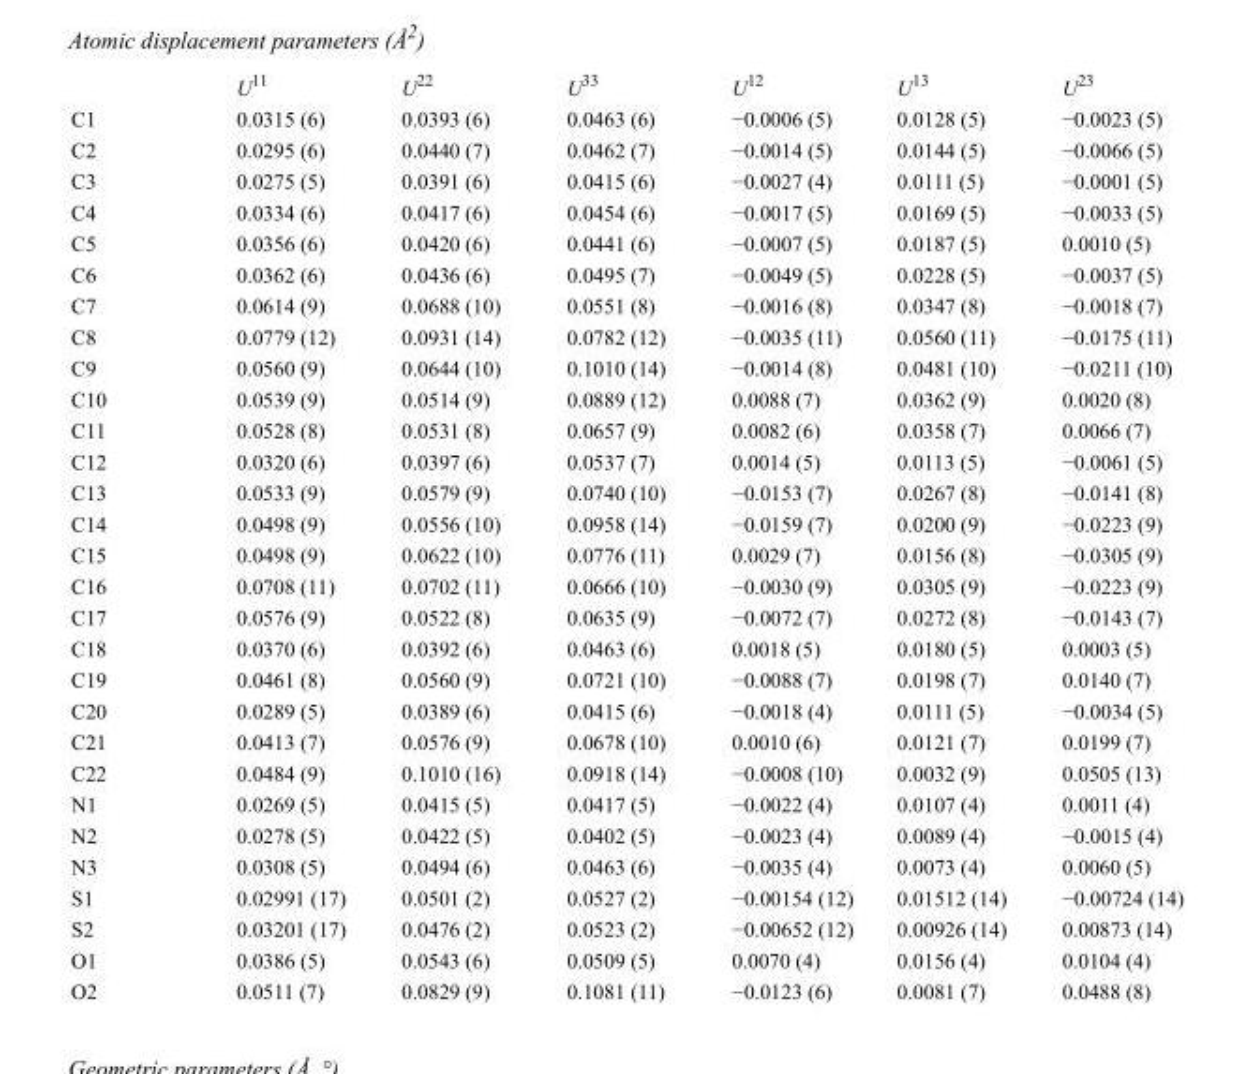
<table><thead><tr><td></td><td>U<sup>11</sup></td><td>U<sup>22</sup></td><td>U<sup>33</sup></td><td>U<sup>12</sup></td><td>U<sup>13</sup></td><td>U<sup>23</sup></td></tr></thead><tbody><tr><td>C1</td><td>0.0315 (6)</td><td>0.0393 (6)</td><td>0.0463 (6)</td><td>−0.0006 (5)</td><td>0.0128 (5)</td><td>−0.0023 (5)</td></tr><tr><td>C2</td><td>0.0295 (6)</td><td>0.0440 (7)</td><td>0.0462 (7)</td><td>−0.0014 (5)</td><td>0.0144 (5)</td><td>−0.0066 (5)</td></tr><tr><td>C3</td><td>0.0275 (5)</td><td>0.0391 (6)</td><td>0.0415 (6)</td><td>−0.0027 (4)</td><td>0.0111 (5)</td><td>−0.0001 (5)</td></tr><tr><td>C4</td><td>0.0334 (6)</td><td>0.0417 (6)</td><td>0.0454 (6)</td><td>−0.0017 (5)</td><td>0.0169 (5)</td><td>−0.0033 (5)</td></tr><tr><td>C5</td><td>0.0356 (6)</td><td>0.0420 (6)</td><td>0.0441 (6)</td><td>−0.0007 (5)</td><td>0.0187 (5)</td><td>0.0010 (5)</td></tr><tr><td>C6</td><td>0.0362 (6)</td><td>0.0436 (6)</td><td>0.0495 (7)</td><td>−0.0049 (5)</td><td>0.0228 (5)</td><td>−0.0037 (5)</td></tr><tr><td>C7</td><td>0.0614 (9)</td><td>0.0688 (10)</td><td>0.0551 (8)</td><td>−0.0016 (8)</td><td>0.0347 (8)</td><td>−0.0018 (7)</td></tr><tr><td>C8</td><td>0.0779 (12)</td><td>0.0931 (14)</td><td>0.0782 (12)</td><td>−0.0035 (11)</td><td>0.0560 (11)</td><td>−0.0175 (11)</td></tr><tr><td>C9</td><td>0.0560 (9)</td><td>0.0644 (10)</td><td>0.1010 (14)</td><td>−0.0014 (8)</td><td>0.0481 (10)</td><td>−0.0211 (10)</td></tr><tr><td>C10</td><td>0.0539 (9)</td><td>0.0514 (9)</td><td>0.0889 (12)</td><td>0.0088 (7)</td><td>0.0362 (9)</td><td>0.0020 (8)</td></tr><tr><td>C11</td><td>0.0528 (8)</td><td>0.0531 (8)</td><td>0.0657 (9)</td><td>0.0082 (6)</td><td>0.0358 (7)</td><td>0.0066 (7)</td></tr><tr><td>C12</td><td>0.0320 (6)</td><td>0.0397 (6)</td><td>0.0537 (7)</td><td>0.0014 (5)</td><td>0.0113 (5)</td><td>−0.0061 (5)</td></tr><tr><td>C13</td><td>0.0533 (9)</td><td>0.0579 (9)</td><td>0.0740 (10)</td><td>−0.0153 (7)</td><td>0.0267 (8)</td><td>−0.0141 (8)</td></tr><tr><td>C14</td><td>0.0498 (9)</td><td>0.0556 (10)</td><td>0.0958 (14)</td><td>−0.0159 (7)</td><td>0.0200 (9)</td><td>−0.0223 (9)</td></tr><tr><td>C15</td><td>0.0498 (9)</td><td>0.0622 (10)</td><td>0.0776 (11)</td><td>0.0029 (7)</td><td>0.0156 (8)</td><td>−0.0305 (9)</td></tr><tr><td>C16</td><td>0.0708 (11)</td><td>0.0702 (11)</td><td>0.0666 (10)</td><td>−0.0030 (9)</td><td>0.0305 (9)</td><td>−0.0223 (9)</td></tr><tr><td>C17</td><td>0.0576 (9)</td><td>0.0522 (8)</td><td>0.0635 (9)</td><td>−0.0072 (7)</td><td>0.0272 (8)</td><td>−0.0143 (7)</td></tr><tr><td>C18</td><td>0.0370 (6)</td><td>0.0392 (6)</td><td>0.0463 (6)</td><td>0.0018 (5)</td><td>0.0180 (5)</td><td>0.0003 (5)</td></tr><tr><td>C19</td><td>0.0461 (8)</td><td>0.0560 (9)</td><td>0.0721 (10)</td><td>−0.0088 (7)</td><td>0.0198 (7)</td><td>0.0140 (7)</td></tr><tr><td>C20</td><td>0.0289 (5)</td><td>0.0389 (6)</td><td>0.0415 (6)</td><td>−0.0018 (4)</td><td>0.0111 (5)</td><td>−0.0034 (5)</td></tr><tr><td>C21</td><td>0.0413 (7)</td><td>0.0576 (9)</td><td>0.0678 (10)</td><td>0.0010 (6)</td><td>0.0121 (7)</td><td>0.0199 (7)</td></tr><tr><td>C22</td><td>0.0484 (9)</td><td>0.1010 (16)</td><td>0.0918 (14)</td><td>−0.0008 (10)</td><td>0.0032 (9)</td><td>0.0505 (13)</td></tr><tr><td>N1</td><td>0.0269 (5)</td><td>0.0415 (5)</td><td>0.0417 (5)</td><td>−0.0022 (4)</td><td>0.0107 (4)</td><td>0.0011 (4)</td></tr><tr><td>N2</td><td>0.0278 (5)</td><td>0.0422 (5)</td><td>0.0402 (5)</td><td>−0.0023 (4)</td><td>0.0089 (4)</td><td>−0.0015 (4)</td></tr><tr><td>N3</td><td>0.0308 (5)</td><td>0.0494 (6)</td><td>0.0463 (6)</td><td>−0.0035 (4)</td><td>0.0073 (4)</td><td>0.0060 (5)</td></tr><tr><td>S1</td><td>0.02991 (17)</td><td>0.0501 (2)</td><td>0.0527 (2)</td><td>−0.00154 (12)</td><td>0.01512 (14)</td><td>−0.00724 (14)</td></tr><tr><td>S2</td><td>0.03201 (17)</td><td>0.0476 (2)</td><td>0.0523 (2)</td><td>−0.00652 (12)</td><td>0.00926 (14)</td><td>0.00873 (14)</td></tr><tr><td>O1</td><td>0.0386 (5)</td><td>0.0543 (6)</td><td>0.0509 (5)</td><td>0.0070 (4)</td><td>0.0156 (4)</td><td>0.0104 (4)</td></tr><tr><td>O2</td><td>0.0511 (7)</td><td>0.0829 (9)</td><td>0.1081 (11)</td><td>−0.0123 (6)</td><td>0.0081 (7)</td><td>0.0488 (8)</td></tr></tbody></table>